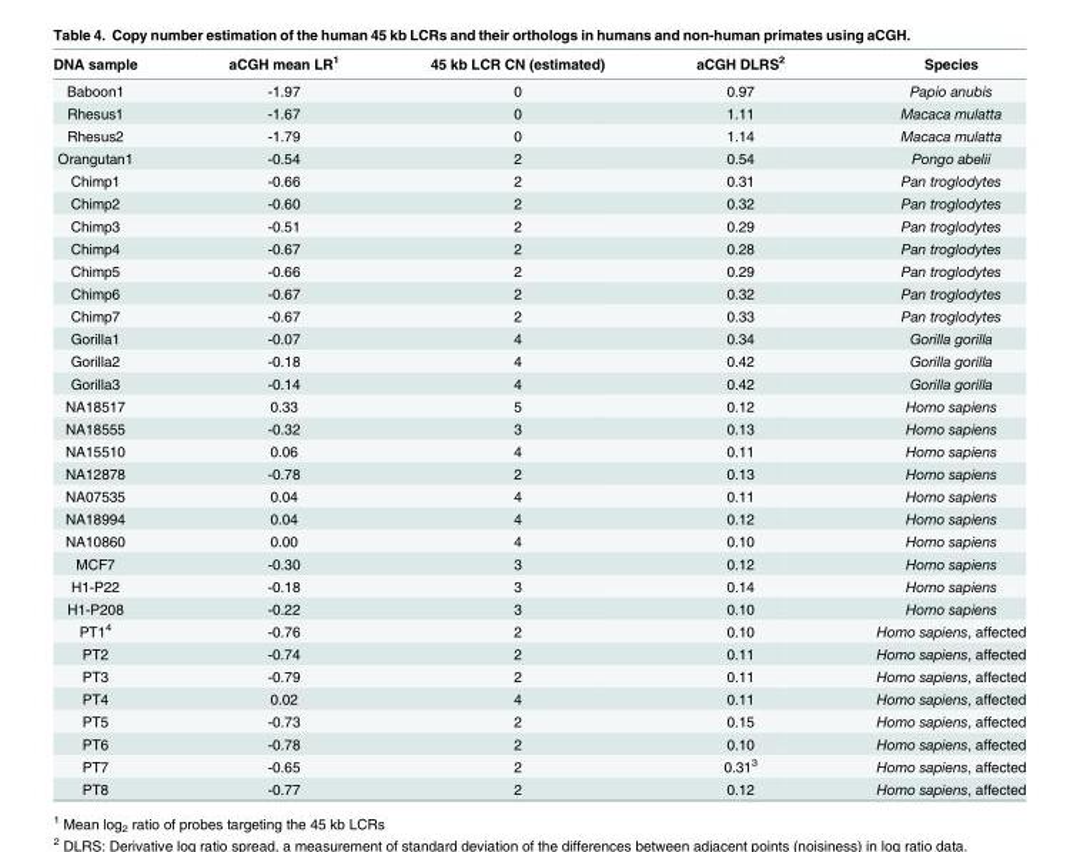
<table><thead><tr><td>DNA sample</td><td>aCGH mean LR<sup>1</sup></td><td>45 kb LCR CN (estimated)</td><td>aCGH DLRS<sup>2</sup></td><td>Species</td></tr></thead><tbody><tr><td>Baboon1</td><td>-1.97</td><td>0</td><td>0.97</td><td>Papio anubis</td></tr><tr><td>Rhesus1</td><td>-1.67</td><td>0</td><td>1.11</td><td>Macaca mulatta</td></tr><tr><td>Rhesus2</td><td>-1.79</td><td>0</td><td>1.14</td><td>Macaca mulatta</td></tr><tr><td>Orangutan1</td><td>-0.54</td><td>2</td><td>0.54</td><td>Pongo abelii</td></tr><tr><td>Chimp1</td><td>-0.66</td><td>2</td><td>0.31</td><td>Pan troglodytes</td></tr><tr><td>Chimp2</td><td>-0.60</td><td>2</td><td>0.32</td><td>Pan troglodytes</td></tr><tr><td>Chimp3</td><td>-0.51</td><td>2</td><td>0.29</td><td>Pan troglodytes</td></tr><tr><td>Chimp4</td><td>-0.67</td><td>2</td><td>0.28</td><td>Pan troglodytes</td></tr><tr><td>Chimp5</td><td>-0.66</td><td>2</td><td>0.29</td><td>Pan troglodytes</td></tr><tr><td>Chimp6</td><td>-0.67</td><td>2</td><td>0.32</td><td>Pan troglodytes</td></tr><tr><td>Chimp7</td><td>-0.67</td><td>2</td><td>0.33</td><td>Pan troglodytes</td></tr><tr><td>Gorilla1</td><td>-0.07</td><td>4</td><td>0.34</td><td>Gorilla gorilla</td></tr><tr><td>Gorilla2</td><td>-0.18</td><td>4</td><td>0.42</td><td>Gorilla gorilla</td></tr><tr><td>Gorilla3</td><td>-0.14</td><td>4</td><td>0.42</td><td>Gorilla gorilla</td></tr><tr><td>NA18517</td><td>0.33</td><td>5</td><td>0.12</td><td>Homo sapiens</td></tr><tr><td>NA18555</td><td>-0.32</td><td>3</td><td>0.13</td><td>Homo sapiens</td></tr><tr><td>NA15510</td><td>0.06</td><td>4</td><td>0.11</td><td>Homo sapiens</td></tr><tr><td>NA12878</td><td>-0.78</td><td>2</td><td>0.13</td><td>Homo sapiens</td></tr><tr><td>NA07535</td><td>0.04</td><td>4</td><td>0.11</td><td>Homo sapiens</td></tr><tr><td>NA18994</td><td>0.04</td><td>4</td><td>0.12</td><td>Homo sapiens</td></tr><tr><td>NA10860</td><td>0.00</td><td>4</td><td>0.10</td><td>Homo sapiens</td></tr><tr><td>MCF7</td><td>-0.30</td><td>3</td><td>0.12</td><td>Homo sapiens</td></tr><tr><td>H1-P22</td><td>-0.18</td><td>3</td><td>0.14</td><td>Homo sapiens</td></tr><tr><td>H1-P208</td><td>-0.22</td><td>3</td><td>0.10</td><td>Homo sapiens</td></tr><tr><td>PT1<sup>4</sup></td><td>-0.76</td><td>2</td><td>0.10</td><td>Homo sapiens, affected</td></tr><tr><td>PT2</td><td>-0.74</td><td>2</td><td>0.11</td><td>Homo sapiens, affected</td></tr><tr><td>PT3</td><td>-0.79</td><td>2</td><td>0.11</td><td>Homo sapiens, affected</td></tr><tr><td>PT4</td><td>0.02</td><td>4</td><td>0.11</td><td>Homo sapiens, affected</td></tr><tr><td>PT5</td><td>-0.73</td><td>2</td><td>0.15</td><td>Homo sapiens, affected</td></tr><tr><td>PT6</td><td>-0.78</td><td>2</td><td>0.10</td><td>Homo sapiens, affected</td></tr><tr><td>PT7</td><td>-0.65</td><td>2</td><td>0.31<sup>3</sup></td><td>Homo sapiens, affected</td></tr><tr><td>PT8</td><td>-0.77</td><td>2</td><td>0.12</td><td>Homo sapiens, affected</td></tr></tbody></table>